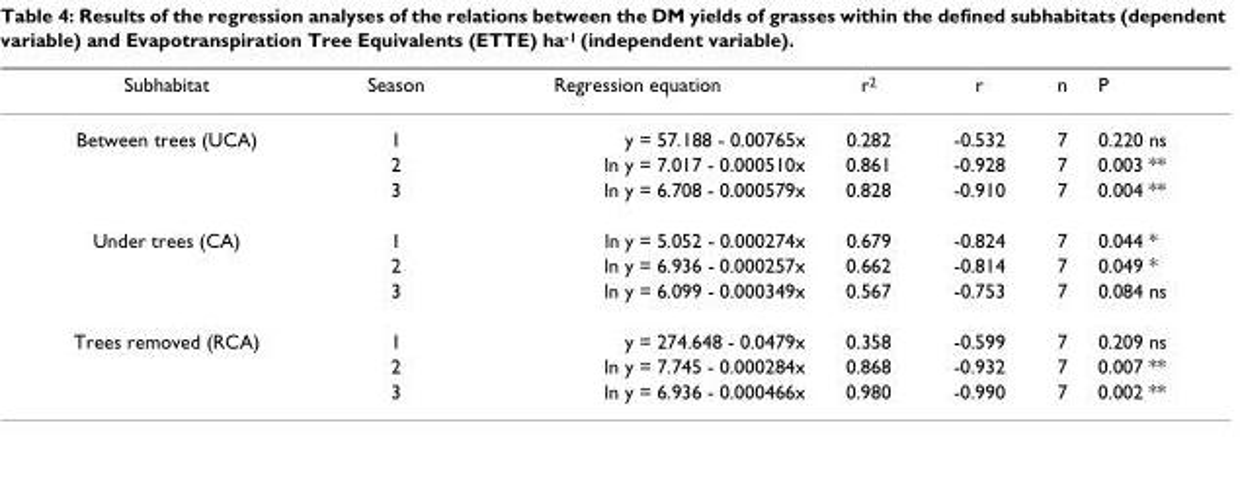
<table><thead><tr><td>Subhabitat</td><td>Season</td><td>Regression equation</td><td>r<sup>2</sup></td><td>r</td><td>n</td><td>P</td></tr></thead><tbody><tr><td rowspan="3">Between trees (UCA)</td><td>1</td><td>y = 57.188 - 0.00765x</td><td>0.282</td><td>-0.532</td><td>7</td><td>0.220 ns</td></tr><tr><td>2</td><td>ln y = 7.017 - 0.000510x</td><td>0.861</td><td>-0.928</td><td>7</td><td>0.003 **</td></tr><tr><td>3</td><td>ln y = 6.708 - 0.000579x</td><td>0.828</td><td>-0.910</td><td>7</td><td>0.004 **</td></tr><tr><td rowspan="3">Under trees (CA)</td><td>1</td><td>ln y = 5.052 - 0.000274x</td><td>0.679</td><td>-0.824</td><td>7</td><td>0.044 *</td></tr><tr><td>2</td><td>ln y = 6.936 - 0.000257x</td><td>0.662</td><td>-0.814</td><td>7</td><td>0.049 *</td></tr><tr><td>3</td><td>ln y = 6.099 - 0.000349x</td><td>0.567</td><td>-0.753</td><td>7</td><td>0.084 ns</td></tr><tr><td rowspan="3">Trees removed (RCA)</td><td>1</td><td>y = 274.648 - 0.0479x</td><td>0.358</td><td>-0.599</td><td>7</td><td>0.209 ns</td></tr><tr><td>2</td><td>ln y = 7.745 - 0.000284x</td><td>0.868</td><td>-0.932</td><td>7</td><td>0.007 **</td></tr><tr><td>3</td><td>ln y = 6.936 - 0.000466x</td><td>0.980</td><td>-0.990</td><td>7</td><td>0.002 **</td></tr></tbody></table>